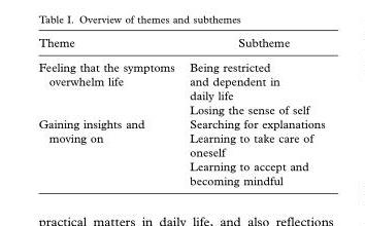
<table><thead><tr><td>Theme</td><td>Subtheme</td></tr></thead><tbody><tr><td rowspan="2">Feeling that the symptoms overwhelm life</td><td>Being restricted and dependent in daily life</td></tr><tr><td>Losing the sense of self</td></tr><tr><td>Gaining insights and</td><td>Searching for explanations</td></tr><tr><td rowspan="2">moving on</td><td>Learning to take care of oneself</td></tr><tr><td>Learning to accept and becoming mindful</td></tr></tbody></table>